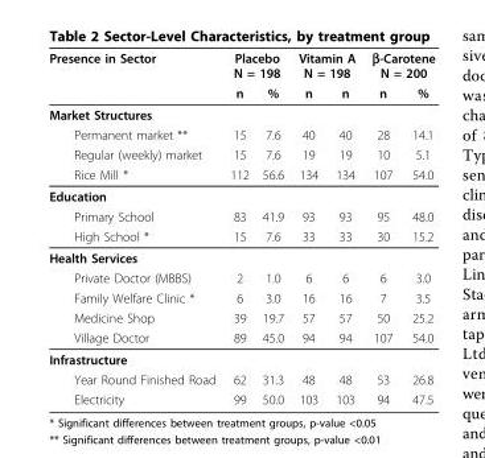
<table><thead><tr><td rowspan="2">Presence in Sector</td><td colspan="2">Placebo N = 198</td><td colspan="2">Vitamin A N = 198</td><td colspan="2">β-Carotene N = 200</td></tr><tr><td>n</td><td>%</td><td>n</td><td>n</td><td>n</td><td>%</td></tr></thead><tbody><tr><td colspan="7">Market Structures</td></tr><tr><td>Permanent market **</td><td>15</td><td>7.6</td><td>40</td><td>40</td><td>28</td><td>14.1</td></tr><tr><td>Regular (weekly) market</td><td>15</td><td>7.6</td><td>19</td><td>19</td><td>10</td><td>5.1</td></tr><tr><td>Rice Mill *</td><td>112</td><td>56.6</td><td>134</td><td>134</td><td>107</td><td>54.0</td></tr><tr><td colspan="7">Education</td></tr><tr><td>Primary School</td><td>83</td><td>41.9</td><td>93</td><td>93</td><td>95</td><td>48.0</td></tr><tr><td>High School *</td><td>15</td><td>7.6</td><td>33</td><td>33</td><td>30</td><td>15.2</td></tr><tr><td colspan="7">Health Services</td></tr><tr><td>Private Doctor (MBBS)</td><td>2</td><td>1.0</td><td>6</td><td>6</td><td>6</td><td>3.0</td></tr><tr><td>Family Welfare Clinic *</td><td>6</td><td>3.0</td><td>16</td><td>16</td><td>7</td><td>3.5</td></tr><tr><td>Medicine Shop</td><td>39</td><td>19.7</td><td>57</td><td>57</td><td>50</td><td>25.2</td></tr><tr><td>Village Doctor</td><td>89</td><td>45.0</td><td>94</td><td>94</td><td>107</td><td>54.0</td></tr><tr><td colspan="7">Infrastructure</td></tr><tr><td>Year Round Finished Road</td><td>62</td><td>31.3</td><td>48</td><td>48</td><td>53</td><td>26.8</td></tr><tr><td>Electricity</td><td>99</td><td>50.0</td><td>103</td><td>103</td><td>94</td><td>47.5</td></tr></tbody></table>